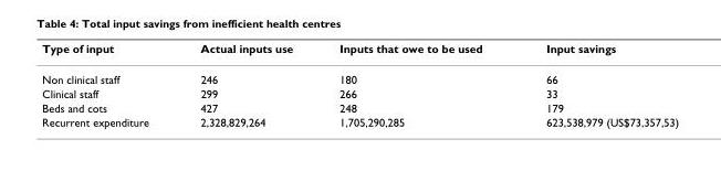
<table><thead><tr><td>Type of input</td><td>Actual inputs use</td><td>Inputs that owe to be used</td><td>Input savings</td></tr></thead><tbody><tr><td>Non clinical staff</td><td>246</td><td>180</td><td>66</td></tr><tr><td>Clinical staff</td><td>299</td><td>266</td><td>33</td></tr><tr><td>Beds and cots</td><td>427</td><td>248</td><td>179</td></tr><tr><td>Recurrent expenditure</td><td>2,328,829,264</td><td>1,705,290,285</td><td>623,538,979 (US$73,357,53)</td></tr></tbody></table>